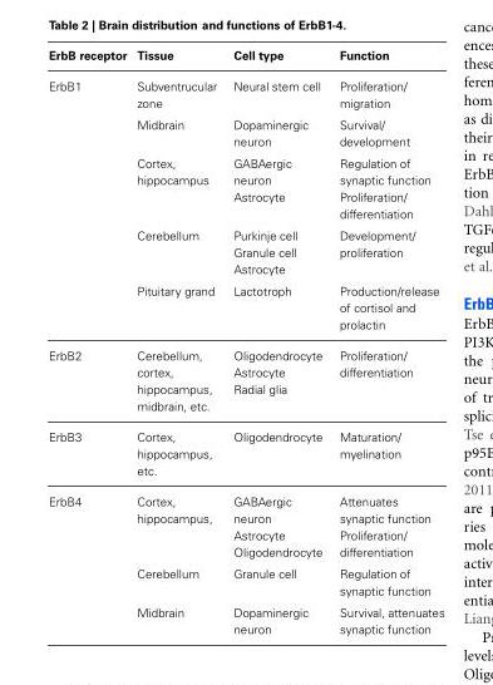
<table><thead><tr><td>ErbB receptor</td><td>Tissue</td><td>Cell type</td><td>Function</td></tr></thead><tbody><tr><td rowspan="5">ErbB1</td><td>Subventrucular zone</td><td>Neural stem cell</td><td>Proliferation/ migration</td></tr><tr><td>Midbrain</td><td>Dopaminergic neuron</td><td>Survival/ development</td></tr><tr><td>Cortex, hippocampus</td><td>GABAergic neuron Astrocyte</td><td>Regulation of synaptic function Proliferation/ differentiation</td></tr><tr><td>Cerebellum</td><td>Purkinje cell Granule cell Astrocyte</td><td>Development/ proliferation</td></tr><tr><td>Pituitary grand</td><td>Lactotroph</td><td>Production/release of cortisol and prolactin</td></tr><tr><td>ErbB2</td><td>Cerebellum, cortex, hippocampus, midbrain, etc.</td><td>Oligodendrocyte Astrocyte Radial glia</td><td>Proliferation/ differentiation</td></tr><tr><td>ErbB3</td><td>Cortex, hippocampus, etc.</td><td>Oligodendrocyte</td><td>Maturation/ myelination</td></tr><tr><td rowspan="3">ErbB4</td><td>Cortex, hippocampus,</td><td>GABAergic neuron Astrocyte Oligodendrocyte</td><td>Attenuates synaptic function Proliferation/ differentiation</td></tr><tr><td>Cerebellum</td><td>Granule cell</td><td>Regulation of synaptic function</td></tr><tr><td>Midbrain</td><td>Dopaminergic neuron</td><td>Survival, attenuates synaptic function</td></tr></tbody></table>